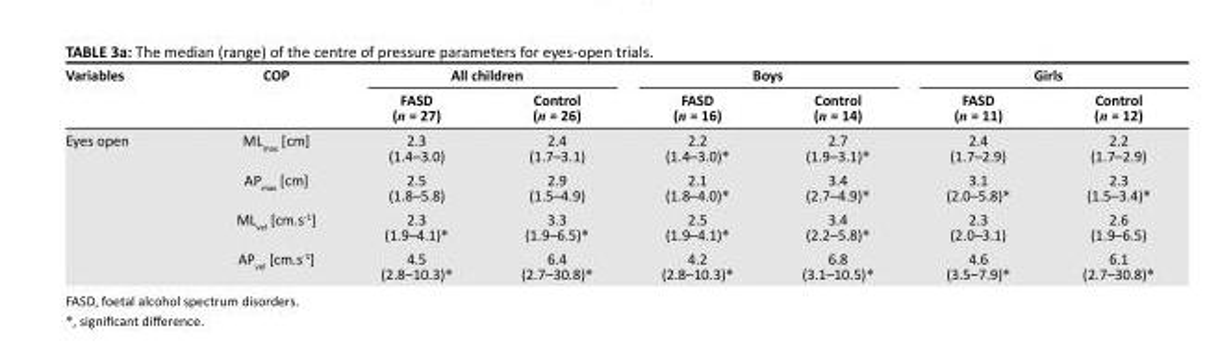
<table><thead><tr><td rowspan="2">Variables</td><td rowspan="2">COP</td><td colspan="2">All children</td><td colspan="2">Boys</td><td colspan="2">Girls</td></tr><tr><td>FASD (n = 27)</td><td>Control (n = 26)</td><td>FASD (n = 16)</td><td>Control (n = 14)</td><td>FASD (n = 11)</td><td>Control (n = 12)</td></tr></thead><tbody><tr><td rowspan="4">Eyes open</td><td>ML<sub>max</sub> [cm]</td><td>2.3 (1.4–3.0)</td><td>2.4 (1.7–3.1)</td><td>2.2 (1.4–3.0)*</td><td>2.7 (1.9–3.1)*</td><td>2.4 (1.7–2.9)</td><td>2.2 (1.7–2.9)</td></tr><tr><td>AP<sub>max</sub> [cm]</td><td>2.5 (1.8–5.8)</td><td>2.9 (1.5–4.9)</td><td>2.1 (1.8–4.0)*</td><td>3.4 (2.7–4.9)*</td><td>3.1 (2.0–5.8)*</td><td>2.3 (1.5–3.4)*</td></tr><tr><td>ML<sub>vel</sub> [cm.s<sup>-1</sup>]</td><td>2.3 (1.9–4.1)*</td><td>3.3 (1.9–6.5)*</td><td>2.5 (1.9–4.1)*</td><td>3.4 (2.2–5.8)*</td><td>2.3 (2.0–3.1)</td><td>2.6 (1.9–6.5)</td></tr><tr><td>AP<sub>vel</sub> [cm.s<sup>-1</sup>]</td><td>4.5 (2.8–10.3)*</td><td>6.4 (2.7–30.8)*</td><td>4.2 (2.8–10.3)*</td><td>6.8 (3.1–10.5)*</td><td>4.6 (3.5–7.9)*</td><td>6.1 (2.7–30.8)*</td></tr></tbody></table>